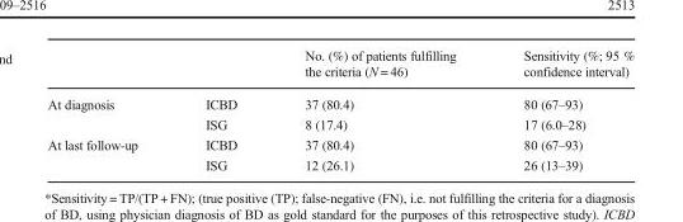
<table><thead><tr><td></td><td></td><td>No. (%) of patients fulfilling the criteria (N = 46)</td><td>Sensitivity (%; 95 % confidence interval)</td></tr></thead><tbody><tr><td rowspan="2">At diagnosis</td><td>ICBD</td><td>37 (80.4)</td><td>80 (67–93)</td></tr><tr><td>ISG</td><td>8 (17.4)</td><td>17 (6.0–28)</td></tr><tr><td rowspan="2">At last follow-up</td><td>ICBD</td><td>37 (80.4)</td><td>80 (67–93)</td></tr><tr><td>ISG</td><td>12 (26.1)</td><td>26 (13–39)</td></tr></tbody></table>